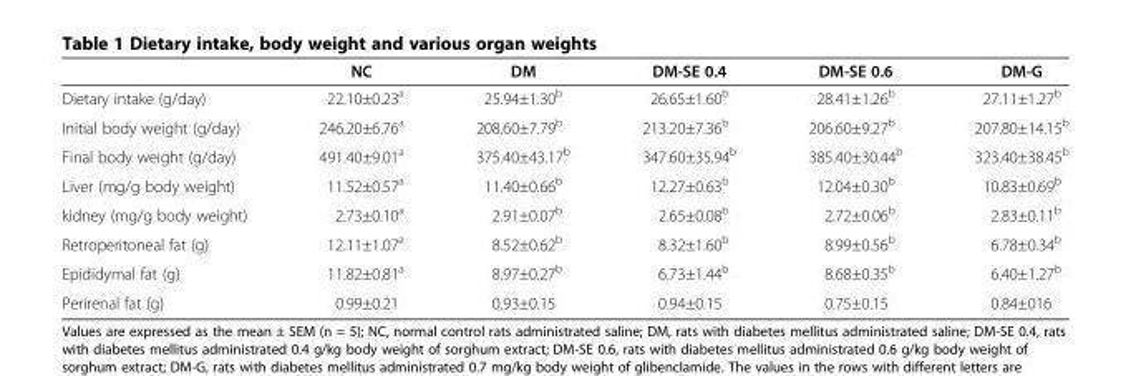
<table><thead><tr><td></td><td>NC</td><td>DM</td><td>DM-SE 0.4</td><td>DM-SE 0.6</td><td>DM-G</td></tr></thead><tbody><tr><td>Dietary intake (g/day)</td><td>22.10±0.23<sup>a</sup></td><td>25.94±1.30<sup>b</sup></td><td>26.65±1.60<sup>b</sup></td><td>28.41±1.26<sup>b</sup></td><td>27.11±1.27<sup>b</sup></td></tr><tr><td>Initial body weight (g/day)</td><td>246.20±6.76<sup>a</sup></td><td>208.60±7.79<sup>b</sup></td><td>213.20±7.36<sup>b</sup></td><td>206.60±9.27<sup>b</sup></td><td>207.80±14.15<sup>b</sup></td></tr><tr><td>Final body weight (g/day)</td><td>491.40±9.01<sup>a</sup></td><td>375.40±43.17<sup>b</sup></td><td>347.60±35.94<sup>b</sup></td><td>385.40±30.44<sup>b</sup></td><td>323.40±38.45<sup>b</sup></td></tr><tr><td>Liver (mg/g body weight)</td><td>11.52±0.57<sup>a</sup></td><td>11.40±0.66<sup>b</sup></td><td>12.27±0.63<sup>b</sup></td><td>12.04±0.30<sup>b</sup></td><td>10.83±0.69<sup>b</sup></td></tr><tr><td>kidney (mg/g body weight)</td><td>2.73±0.10<sup>a</sup></td><td>2.91±0.07<sup>b</sup></td><td>2.65±0.08<sup>b</sup></td><td>2.72±0.06<sup>b</sup></td><td>2.83±0.11<sup>b</sup></td></tr><tr><td>Retroperitoneal fat (g)</td><td>12.11±1.07<sup>a</sup></td><td>8.52±0.62<sup>b</sup></td><td>8.32±1.60<sup>b</sup></td><td>8.99±0.56<sup>b</sup></td><td>6.78±0.34<sup>b</sup></td></tr><tr><td>Epididymal fat (g)</td><td>11.82±0.81<sup>a</sup></td><td>8.97±0.27<sup>b</sup></td><td>6.73±1.44<sup>b</sup></td><td>8.68±0.35<sup>b</sup></td><td>6.40±1.27<sup>b</sup></td></tr><tr><td>Perirenal fat (g)</td><td>0.99±0.21</td><td>0.93±0.15</td><td>0.94±0.15</td><td>0.75±0.15</td><td>0.84±016</td></tr></tbody></table>